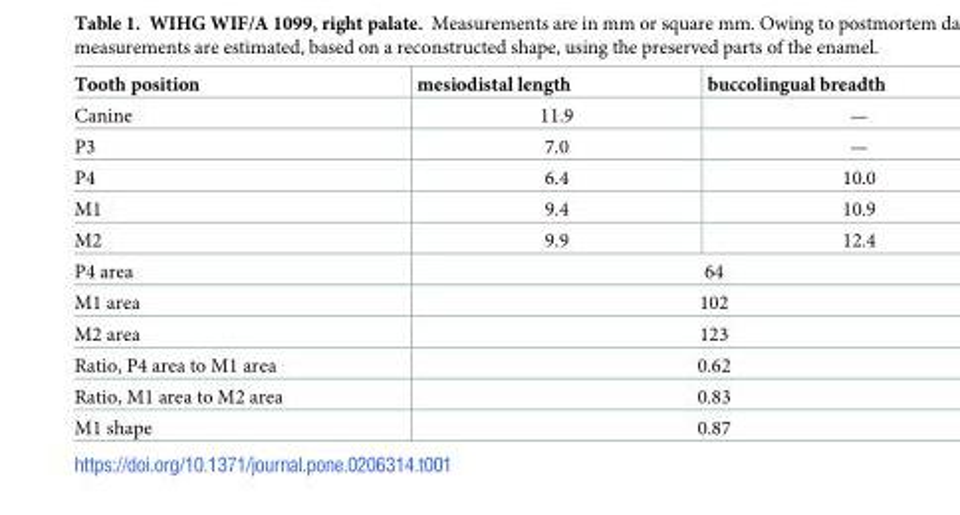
<table><thead><tr><td>Tooth position</td><td>mesiodistal length</td><td>buccolingual breadth</td></tr></thead><tbody><tr><td>Canine</td><td>11.9</td><td>—</td></tr><tr><td>P3</td><td>7.0</td><td>—</td></tr><tr><td>P4</td><td>6.4</td><td>10.0</td></tr><tr><td>M1</td><td>9.4</td><td>10.9</td></tr><tr><td>M2</td><td>9.9</td><td>12.4</td></tr><tr><td>P4 area</td><td colspan="2">64</td></tr><tr><td>M1 area</td><td colspan="2">102</td></tr><tr><td>M2 area</td><td colspan="2">123</td></tr><tr><td>Ratio, P4 area to M1 area</td><td colspan="2">0.62</td></tr><tr><td>Ratio, M1 area to M2 area</td><td colspan="2">0.83</td></tr><tr><td>M1 shape</td><td colspan="2">0.87</td></tr></tbody></table>